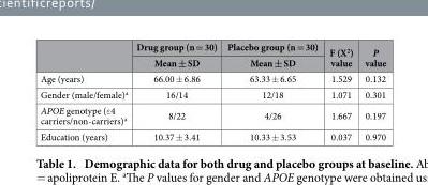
<table><thead><tr><td rowspan="2"></td><td rowspan="2">Drug group (n = 30) Mean ± SD</td><td rowspan="2">Placebo group (n = 30) Mean ± SD</td><td rowspan="2">F (X<sup>2</sup>) value</td><td rowspan="2">P value</td></tr><tr></tr></thead><tbody><tr><td>Age (years)</td><td>66.00 ± 6.86</td><td>63.33 ± 6.65</td><td>1.529</td><td>0.132</td></tr><tr><td>Gender (male/female)<sup>a</sup></td><td>16/14</td><td>12/18</td><td>1.071</td><td>0.301</td></tr><tr><td>APOE genotype (ε 4 carriers/non-carriers)<sup>a</sup></td><td>8/22</td><td>4/26</td><td>1.667</td><td>0.197</td></tr><tr><td>Education (years)</td><td>10.37 ± 3.41</td><td>10.33 ± 3.53</td><td>0.037</td><td>0.970</td></tr></tbody></table>